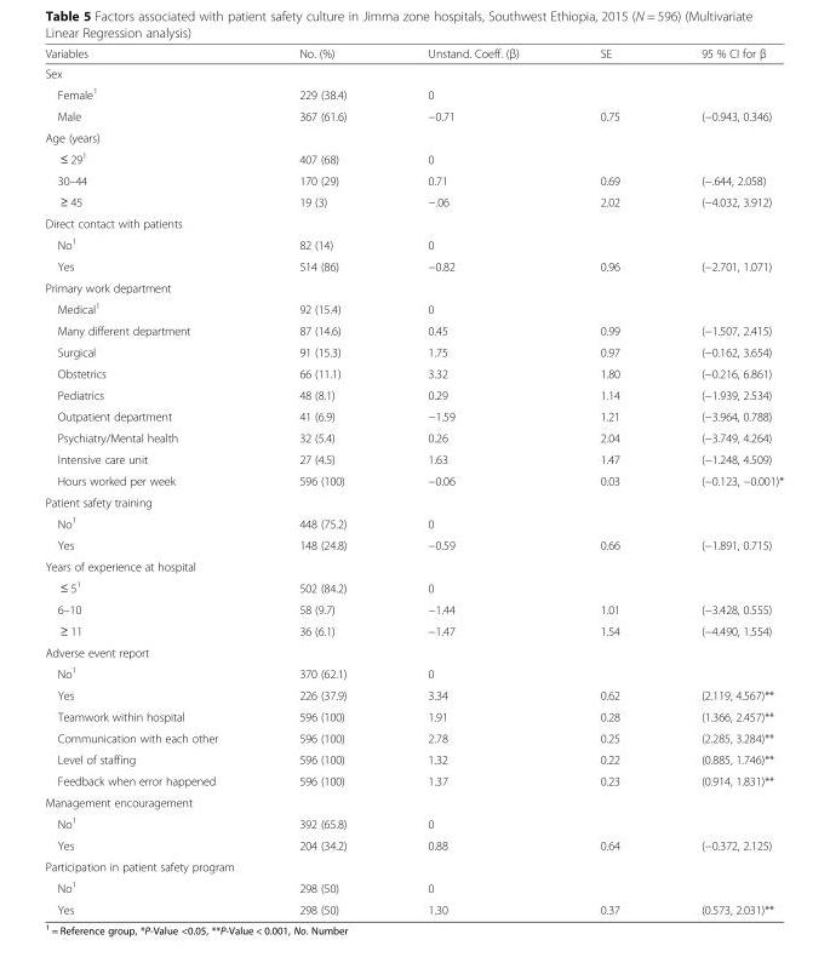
<table><thead><tr><td>Variables</td><td>No. (%)</td><td>Unstand. Coeff. (β)</td><td>SE</td><td>95 % CI for β</td></tr></thead><tbody><tr><td colspan="5">Sex</td></tr><tr><td>Female<sup>1</sup></td><td>229 (38.4)</td><td>0</td><td></td><td></td></tr><tr><td>Male</td><td>367 (61.6)</td><td>−0.71</td><td>0.75</td><td>(−0.943, 0.346)</td></tr><tr><td colspan="5">Age (years)</td></tr><tr><td>≤ 29<sup>1</sup></td><td>407 (68)</td><td>0</td><td></td><td></td></tr><tr><td>30–44</td><td>170 (29)</td><td>0.71</td><td>0.69</td><td>(−.644, 2.058)</td></tr><tr><td>≥ 45</td><td>19 (3)</td><td>−.06</td><td>2.02</td><td>(−4.032, 3.912)</td></tr><tr><td colspan="5">Direct contact with patients</td></tr><tr><td>No<sup>1</sup></td><td>82 (14)</td><td>0</td><td></td><td></td></tr><tr><td>Yes</td><td>514 (86)</td><td>−0.82</td><td>0.96</td><td>(−2.701, 1.071)</td></tr><tr><td colspan="5">Primary work department</td></tr><tr><td>Medical<sup>1</sup></td><td>92 (15.4)</td><td>0</td><td></td><td></td></tr><tr><td>Many different department</td><td>87 (14.6)</td><td>0.45</td><td>0.99</td><td>(−1.507, 2.415)</td></tr><tr><td>Surgical</td><td>91 (15.3)</td><td>1.75</td><td>0.97</td><td>(−0.162, 3.654)</td></tr><tr><td>Obstetrics</td><td>66 (11.1)</td><td>3.32</td><td>1.80</td><td>(−0.216, 6.861)</td></tr><tr><td>Pediatrics</td><td>48 (8.1)</td><td>0.29</td><td>1.14</td><td>(−1.939, 2.534)</td></tr><tr><td>Outpatient department</td><td>41 (6.9)</td><td>−1.59</td><td>1.21</td><td>(−3.964, 0.788)</td></tr><tr><td>Psychiatry/Mental health</td><td>32 (5.4)</td><td>0.26</td><td>2.04</td><td>(−3.749, 4.264)</td></tr><tr><td>Intensive care unit</td><td>27 (4.5)</td><td>1.63</td><td>1.47</td><td>(−1.248, 4.509)</td></tr><tr><td>Hours worked per week</td><td>596 (100)</td><td>−0.06</td><td>0.03</td><td>(−0.123, −0.001)*</td></tr><tr><td colspan="5">Patient safety training</td></tr><tr><td>No<sup>1</sup></td><td>448 (75.2)</td><td>0</td><td></td><td></td></tr><tr><td>Yes</td><td>148 (24.8)</td><td>−0.59</td><td>0.66</td><td>(−1.891, 0.715)</td></tr><tr><td colspan="5">Years of experience at hospital</td></tr><tr><td>≤ 5<sup>1</sup></td><td>502 (84.2)</td><td>0</td><td></td><td></td></tr><tr><td>6–10</td><td>58 (9.7)</td><td>−1.44</td><td>1.01</td><td>(−3.428, 0.555)</td></tr><tr><td>≥ 11</td><td>36 (6.1)</td><td>−1.47</td><td>1.54</td><td>(−4.490, 1.554)</td></tr><tr><td colspan="5">Adverse event report</td></tr><tr><td>No<sup>1</sup></td><td>370 (62.1)</td><td>0</td><td></td><td></td></tr><tr><td>Yes</td><td>226 (37.9)</td><td>3.34</td><td>0.62</td><td>(2.119, 4.567)**</td></tr><tr><td>Teamwork within hospital</td><td>596 (100)</td><td>1.91</td><td>0.28</td><td>(1.366, 2.457)**</td></tr><tr><td>Communication with each other</td><td>596 (100)</td><td>2.78</td><td>0.25</td><td>(2.285, 3.284)**</td></tr><tr><td>Level of staffing</td><td>596 (100)</td><td>1.32</td><td>0.22</td><td>(0.885, 1.746)**</td></tr><tr><td>Feedback when error happened</td><td>596 (100)</td><td>1.37</td><td>0.23</td><td>(0.914, 1.831)**</td></tr><tr><td colspan="5">Management encouragement</td></tr><tr><td>No<sup>1</sup></td><td>392 (65.8)</td><td>0</td><td></td><td></td></tr><tr><td>Yes</td><td>204 (34.2)</td><td>0.88</td><td>0.64</td><td>(−0.372, 2.125)</td></tr><tr><td colspan="5">Participation in patient safety program</td></tr><tr><td>No<sup>1</sup></td><td>298 (50)</td><td>0</td><td></td><td></td></tr><tr><td>Yes</td><td>298 (50)</td><td>1.30</td><td>0.37</td><td>(0.573, 2.031)**</td></tr></tbody></table>